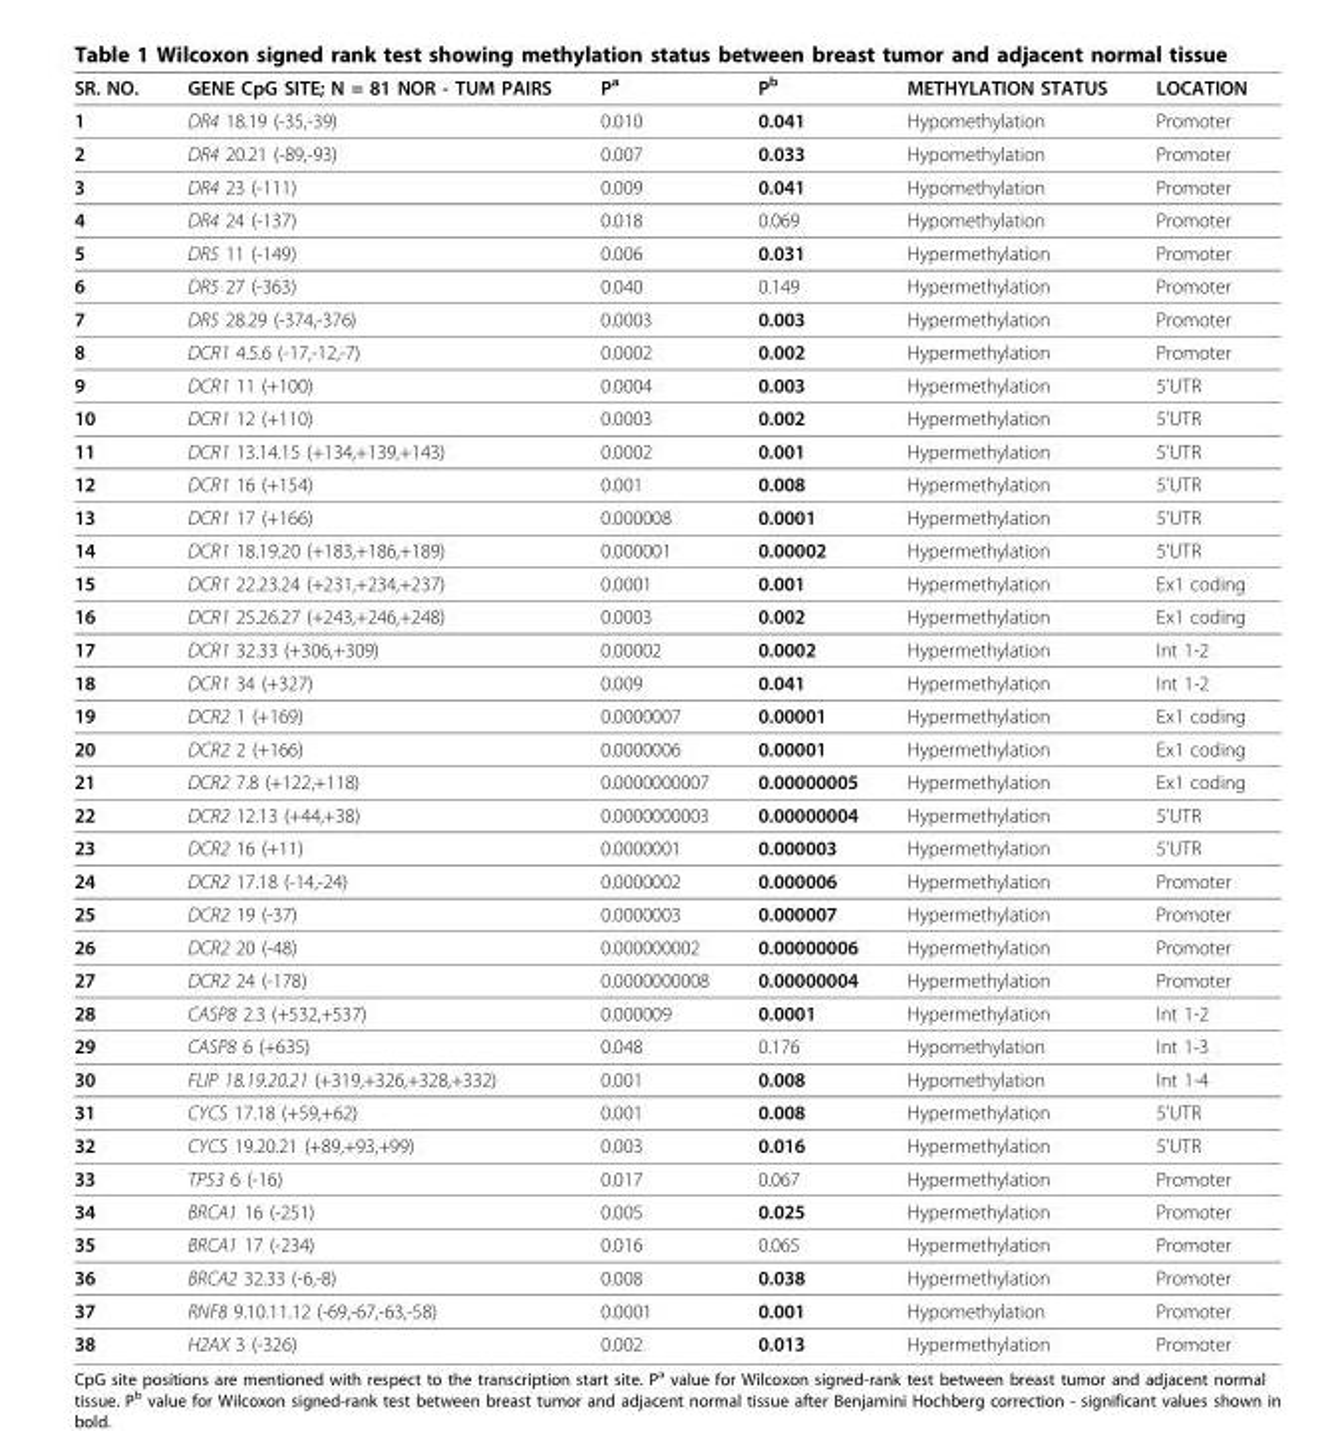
<table><thead><tr><td>SR. NO.</td><td>GENE CpG SITE; N = 81 NOR - TUM PAIRS</td><td>P<sup>a</sup></td><td>P<sup>b</sup></td><td>METHYLATION STATUS</td><td>LOCATION</td></tr></thead><tbody><tr><td>1</td><td>DR4 18.19 (-35,-39)</td><td>0.010</td><td>0.041</td><td>Hypomethylation</td><td>Promoter</td></tr><tr><td>2</td><td>DR4 20.21 (-89,-93)</td><td>0.007</td><td>0.033</td><td>Hypomethylation</td><td>Promoter</td></tr><tr><td>3</td><td>DR4 23 (-111)</td><td>0.009</td><td>0.041</td><td>Hypomethylation</td><td>Promoter</td></tr><tr><td>4</td><td>DR4 24 (-137)</td><td>0.018</td><td>0.069</td><td>Hypomethylation</td><td>Promoter</td></tr><tr><td>5</td><td>DR5 11 (-149)</td><td>0.006</td><td>0.031</td><td>Hypermethylation</td><td>Promoter</td></tr><tr><td>6</td><td>DR5 27 (-363)</td><td>0.040</td><td>0.149</td><td>Hypermethylation</td><td>Promoter</td></tr><tr><td>7</td><td>DR5 28.29 (-374,-376)</td><td>0.0003</td><td>0.003</td><td>Hypermethylation</td><td>Promoter</td></tr><tr><td>8</td><td>DCR1 4.5.6 (-17,-12,-7)</td><td>0.0002</td><td>0.002</td><td>Hypermethylation</td><td>Promoter</td></tr><tr><td>9</td><td>DCR1 11 (+100)</td><td>0.0004</td><td>0.003</td><td>Hypermethylation</td><td>5’UTR</td></tr><tr><td>10</td><td>DCR1 12 (+110)</td><td>0.0003</td><td>0.002</td><td>Hypermethylation</td><td>5’UTR</td></tr><tr><td>11</td><td>DCR1 13.14.15 (+134,+139,+143)</td><td>0.0002</td><td>0.001</td><td>Hypermethylation</td><td>5’UTR</td></tr><tr><td>12</td><td>DCR1 16 (+154)</td><td>0.001</td><td>0.008</td><td>Hypermethylation</td><td>5’UTR</td></tr><tr><td>13</td><td>DCR1 17 (+166)</td><td>0.000008</td><td>0.0001</td><td>Hypermethylation</td><td>5’UTR</td></tr><tr><td>14</td><td>DCR1 18.19.20 (+183,+186,+189)</td><td>0.000001</td><td>0.00002</td><td>Hypermethylation</td><td>5’UTR</td></tr><tr><td>15</td><td>DCR1 22.23.24 (+231,+234,+237)</td><td>0.0001</td><td>0.001</td><td>Hypermethylation</td><td>Ex1 coding</td></tr><tr><td>16</td><td>DCR1 25.26.27 (+243,+246,+248)</td><td>0.0003</td><td>0.002</td><td>Hypermethylation</td><td>Ex1 coding</td></tr><tr><td>17</td><td>DCR1 32.33 (+306,+309)</td><td>0.00002</td><td>0.0002</td><td>Hypermethylation</td><td>Int 1-2</td></tr><tr><td>18</td><td>DCR1 34 (+327)</td><td>0.009</td><td>0.041</td><td>Hypermethylation</td><td>Int 1-2</td></tr><tr><td>19</td><td>DCR2 1 (+169)</td><td>0.0000007</td><td>0.00001</td><td>Hypermethylation</td><td>Ex1 coding</td></tr><tr><td>20</td><td>DCR2 2 (+166)</td><td>0.0000006</td><td>0.00001</td><td>Hypermethylation</td><td>Ex1 coding</td></tr><tr><td>21</td><td>DCR2 7.8 (+122,+118)</td><td>0.0000000007</td><td>0.00000005</td><td>Hypermethylation</td><td>Ex1 coding</td></tr><tr><td>22</td><td>DCR2 12.13 (+44,+38)</td><td>0.0000000003</td><td>0.00000004</td><td>Hypermethylation</td><td>5’UTR</td></tr><tr><td>23</td><td>DCR2 16 (+11)</td><td>0.0000001</td><td>0.000003</td><td>Hypermethylation</td><td>5’UTR</td></tr><tr><td>24</td><td>DCR2 17.18 (-14,-24)</td><td>0.0000002</td><td>0.000006</td><td>Hypermethylation</td><td>Promoter</td></tr><tr><td>25</td><td>DCR2 19 (-37)</td><td>0.0000003</td><td>0.000007</td><td>Hypermethylation</td><td>Promoter</td></tr><tr><td>26</td><td>DCR2 20 (-48)</td><td>0.000000002</td><td>0.00000006</td><td>Hypermethylation</td><td>Promoter</td></tr><tr><td>27</td><td>DCR2 24 (-178)</td><td>0.0000000008</td><td>0.00000004</td><td>Hypermethylation</td><td>Promoter</td></tr><tr><td>28</td><td>CASP8 2.3 (+532,+537)</td><td>0.000009</td><td>0.0001</td><td>Hypermethylation</td><td>Int 1-2</td></tr><tr><td>29</td><td>CASP8 6 (+635)</td><td>0.048</td><td>0.176</td><td>Hypomethylation</td><td>Int 1-3</td></tr><tr><td>30</td><td>FLIP 18.19.20.21 (+319,+326,+328,+332)</td><td>0.001</td><td>0.008</td><td>Hypomethylation</td><td>Int 1-4</td></tr><tr><td>31</td><td>CYCS 17.18 (+59,+62)</td><td>0.001</td><td>0.008</td><td>Hypermethylation</td><td>5’UTR</td></tr><tr><td>32</td><td>CYCS 19.20.21 (+89,+93,+99)</td><td>0.003</td><td>0.016</td><td>Hypermethylation</td><td>5’UTR</td></tr><tr><td>33</td><td>TP53 6 (-16)</td><td>0.017</td><td>0.067</td><td>Hypermethylation</td><td>Promoter</td></tr><tr><td>34</td><td>BRCA1 16 (-251)</td><td>0.005</td><td>0.025</td><td>Hypermethylation</td><td>Promoter</td></tr><tr><td>35</td><td>BRCA1 17 (-234)</td><td>0.016</td><td>0.065</td><td>Hypermethylation</td><td>Promoter</td></tr><tr><td>36</td><td>BRCA2 32.33 (-6,-8)</td><td>0.008</td><td>0.038</td><td>Hypermethylation</td><td>Promoter</td></tr><tr><td>37</td><td>RNF8 9.10.11.12 (-69,-67,-63,-58)</td><td>0.0001</td><td>0.001</td><td>Hypomethylation</td><td>Promoter</td></tr><tr><td>38</td><td>H2AX 3 (-326)</td><td>0.002</td><td>0.013</td><td>Hypermethylation</td><td>Promoter</td></tr></tbody></table>